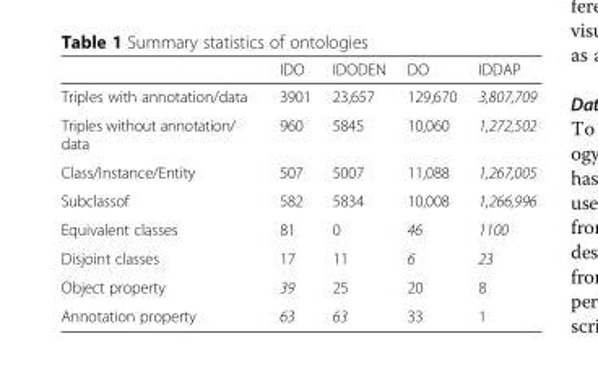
<table><thead><tr><td></td><td>IDO</td><td>IDODEN</td><td>DO</td><td>IDDAP</td></tr></thead><tbody><tr><td>Triples with annotation/data</td><td>3901</td><td>23,657</td><td>129,670</td><td>3,807,709</td></tr><tr><td>Triples without annotation/ data</td><td>960</td><td>5845</td><td>10,060</td><td>1,272,502</td></tr><tr><td>Class/Instance/Entity</td><td>507</td><td>5007</td><td>11,088</td><td>1,267,005</td></tr><tr><td>Subclassof</td><td>582</td><td>5834</td><td>10,008</td><td>1,266,996</td></tr><tr><td>Equivalent classes</td><td>81</td><td>0</td><td>46</td><td>1100</td></tr><tr><td>Disjoint classes</td><td>17</td><td>11</td><td>6</td><td>23</td></tr><tr><td>Object property</td><td>39</td><td>25</td><td>20</td><td>8</td></tr><tr><td>Annotation property</td><td>63</td><td>63</td><td>33</td><td>1</td></tr></tbody></table>